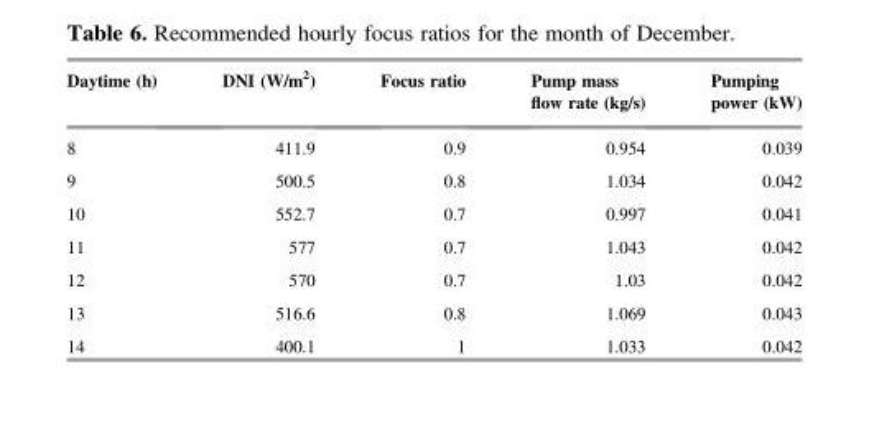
<table><thead><tr><td>Daytime (h)</td><td>DNI (W/m<sup>2</sup>)</td><td>Focus ratio</td><td>Pump mass flow rate (kg/s)</td><td>Pumping power (kW)</td></tr></thead><tbody><tr><td>8</td><td>411.9</td><td>0.9</td><td>0.954</td><td>0.039</td></tr><tr><td>9</td><td>500.5</td><td>0.8</td><td>1.034</td><td>0.042</td></tr><tr><td>10</td><td>552.7</td><td>0.7</td><td>0.997</td><td>0.041</td></tr><tr><td>11</td><td>577</td><td>0.7</td><td>1.043</td><td>0.042</td></tr><tr><td>12</td><td>570</td><td>0.7</td><td>1.03</td><td>0.042</td></tr><tr><td>13</td><td>516.6</td><td>0.8</td><td>1.069</td><td>0.043</td></tr><tr><td>14</td><td>400.1</td><td>1</td><td>1.033</td><td>0.042</td></tr></tbody></table>